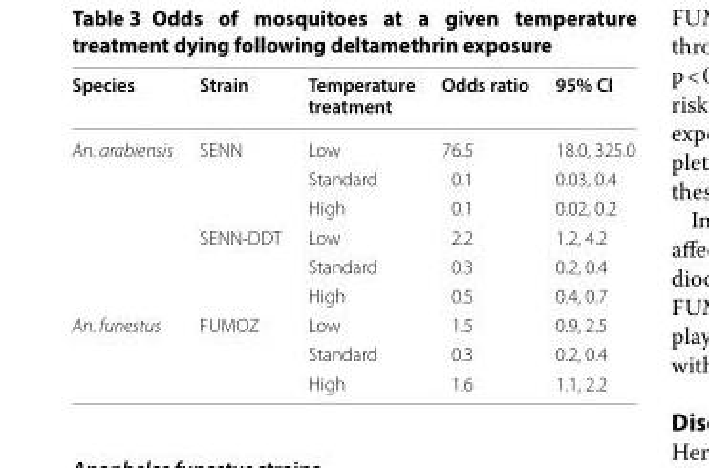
<table><thead><tr><td>Species</td><td>Strain</td><td>Temperature treatment</td><td>Odds ratio</td><td>95% CI</td></tr></thead><tbody><tr><td rowspan="6">An. arabiensis</td><td rowspan="3">SENN</td><td>Low</td><td>76.5</td><td>18.0, 325.0</td></tr><tr><td>Standard</td><td>0.1</td><td>0.03, 0.4</td></tr><tr><td>High</td><td>0.1</td><td>0.02, 0.2</td></tr><tr><td rowspan="3">SENN-DDT</td><td>Low</td><td>2.2</td><td>1.2, 4.2</td></tr><tr><td>Standard</td><td>0.3</td><td>0.2, 0.4</td></tr><tr><td>High</td><td>0.5</td><td>0.4, 0.7</td></tr><tr><td rowspan="3">An. funestus</td><td rowspan="3">FUMOZ</td><td>Low</td><td>1.5</td><td>0.9, 2.5</td></tr><tr><td>Standard</td><td>0.3</td><td>0.2, 0.4</td></tr><tr><td>High</td><td>1.6</td><td>1.1, 2.2</td></tr></tbody></table>